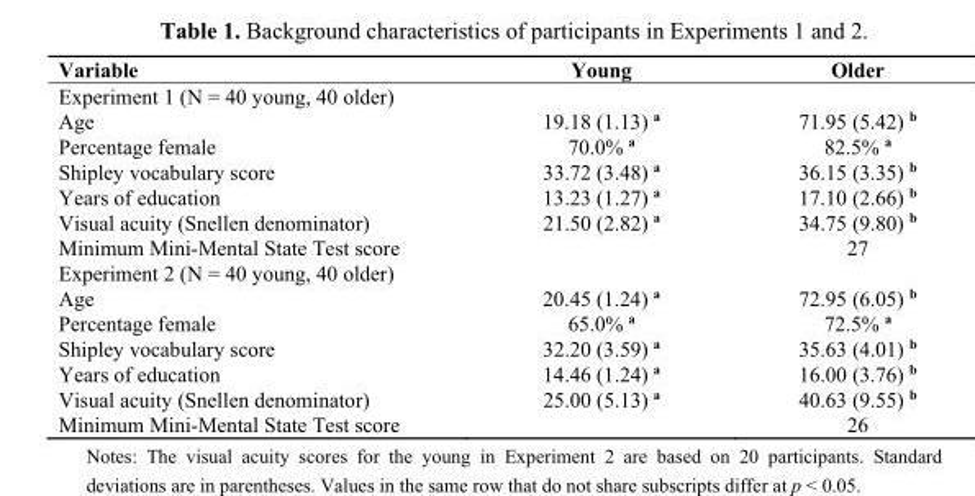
<table><thead><tr><td>Variable</td><td>Young</td><td>Older</td></tr></thead><tbody><tr><td colspan="3">Experiment 1 (N = 40 young, 40 older)</td></tr><tr><td>Age</td><td>19.18 (1.13) <sup>a</sup></td><td>71.95 (5.42) <sup>b</sup></td></tr><tr><td>Percentage female</td><td>70.0% <sup>a</sup></td><td>82.5% <sup>a</sup></td></tr><tr><td>Shipley vocabulary score</td><td>33.72 (3.48) <sup>a</sup></td><td>36.15 (3.35) <sup>b</sup></td></tr><tr><td>Years of education</td><td>13.23 (1.27) <sup>a</sup></td><td>17.10 (2.66) <sup>b</sup></td></tr><tr><td>Visual acuity (Snellen denominator)</td><td>21.50 (2.82) <sup>a</sup></td><td>34.75 (9.80) <sup>b</sup></td></tr><tr><td>Minimum Mini-Mental State Test score</td><td></td><td>27</td></tr><tr><td colspan="3">Experiment 2 (N = 40 young, 40 older)</td></tr><tr><td>Age</td><td>20.45 (1.24) <sup>a</sup></td><td>72.95 (6.05) <sup>b</sup></td></tr><tr><td>Percentage female</td><td>65.0% <sup>a</sup></td><td>72.5% <sup>a</sup></td></tr><tr><td>Shipley vocabulary score</td><td>32.20 (3.59) <sup>a</sup></td><td>35.63 (4.01) <sup>b</sup></td></tr><tr><td>Years of education</td><td>14.46 (1.24) <sup>a</sup></td><td>16.00 (3.76) <sup>b</sup></td></tr><tr><td>Visual acuity (Snellen denominator)</td><td>25.00 (5.13) <sup>a</sup></td><td>40.63 (9.55) <sup>b</sup></td></tr><tr><td>Minimum Mini-Mental State Test score</td><td></td><td>26</td></tr></tbody></table>